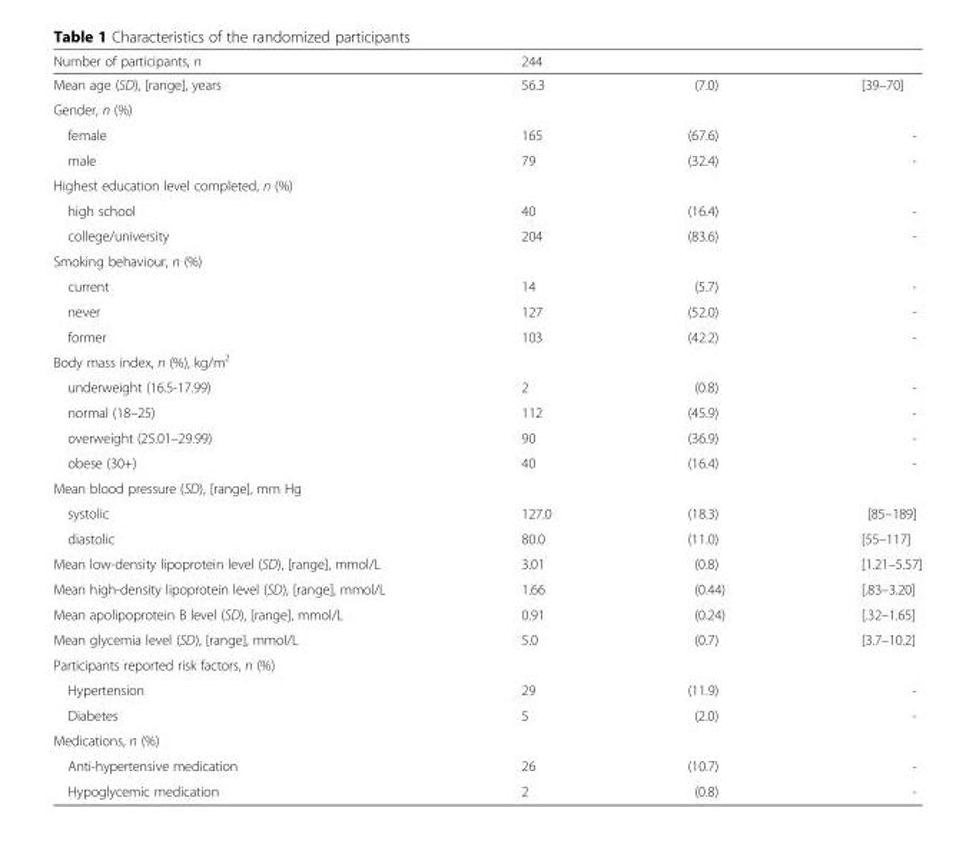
<table><thead><tr><td>Number of participants, n</td><td>244</td><td></td><td></td></tr></thead><tbody><tr><td>Mean age (SD), [range], years</td><td>56.3</td><td>(7.0)</td><td>[39–70]</td></tr><tr><td colspan="4">Gender, n (%)</td></tr><tr><td>female</td><td>165</td><td>(67.6)</td><td>-</td></tr><tr><td>male</td><td>79</td><td>(32.4)</td><td>-</td></tr><tr><td colspan="4">Highest education level completed, n (%)</td></tr><tr><td>high school</td><td>40</td><td>(16.4)</td><td>-</td></tr><tr><td>college/university</td><td>204</td><td>(83.6)</td><td>-</td></tr><tr><td colspan="4">Smoking behaviour, n (%)</td></tr><tr><td>current</td><td>14</td><td>(5.7)</td><td>-</td></tr><tr><td>never</td><td>127</td><td>(52.0)</td><td>-</td></tr><tr><td>former</td><td>103</td><td>(42.2)</td><td>-</td></tr><tr><td colspan="4">Body mass index, n (%), kg/m<sup>2</sup></td></tr><tr><td>underweight (16.5-17.99)</td><td>2</td><td>(0.8)</td><td>-</td></tr><tr><td>normal (18–25)</td><td>112</td><td>(45.9)</td><td>-</td></tr><tr><td>overweight (25.01–29.99)</td><td>90</td><td>(36.9)</td><td>-</td></tr><tr><td>obese (30+)</td><td>40</td><td>(16.4)</td><td>-</td></tr><tr><td colspan="4">Mean blood pressure (SD), [range], mm Hg</td></tr><tr><td>systolic</td><td>127.0</td><td>(18.3)</td><td>[85–189]</td></tr><tr><td>diastolic</td><td>80.0</td><td>(11.0)</td><td>[55–117]</td></tr><tr><td>Mean low-density lipoprotein level (SD), [range], mmol/L</td><td>3.01</td><td>(0.8)</td><td>[1.21–5.57]</td></tr><tr><td>Mean high-density lipoprotein level (SD), [range], mmol/L</td><td>1.66</td><td>(0.44)</td><td>[.83–3.20]</td></tr><tr><td>Mean apolipoprotein B level (SD), [range], mmol/L</td><td>0.91</td><td>(0.24)</td><td>[.32–1.65]</td></tr><tr><td>Mean glycemia level (SD), [range], mmol/L</td><td>5.0</td><td>(0.7)</td><td>[3.7–10.2]</td></tr><tr><td colspan="4">Participants reported risk factors, n (%)</td></tr><tr><td>Hypertension</td><td>29</td><td>(11.9)</td><td>-</td></tr><tr><td>Diabetes</td><td>5</td><td>(2.0)</td><td>-</td></tr><tr><td colspan="4">Medications, n (%)</td></tr><tr><td>Anti-hypertensive medication</td><td>26</td><td>(10.7)</td><td>-</td></tr><tr><td>Hypoglycemic medication</td><td>2</td><td>(0.8)</td><td>-</td></tr></tbody></table>